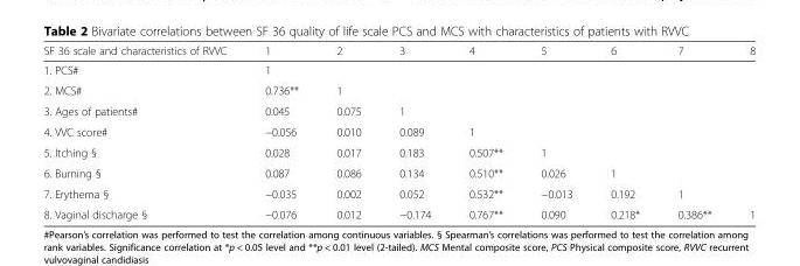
<table><thead><tr><td>SF 36 scale and characteristics of RVVC</td><td>1</td><td>2</td><td>3</td><td>4</td><td>5</td><td>6</td><td>7</td><td>8</td></tr></thead><tbody><tr><td>1. PCS#</td><td>1</td><td></td><td></td><td></td><td></td><td></td><td></td><td></td></tr><tr><td>2. MCS#</td><td>0.736**</td><td>1</td><td></td><td></td><td></td><td></td><td></td><td></td></tr><tr><td>3. Ages of patients#</td><td>0.045</td><td>0.075</td><td>1</td><td></td><td></td><td></td><td></td><td></td></tr><tr><td>4. VVC score#</td><td>−0.056</td><td>0.010</td><td>0.089</td><td>1</td><td></td><td></td><td></td><td></td></tr><tr><td>5. Itching §</td><td>0.028</td><td>0.017</td><td>0.183</td><td>0.507**</td><td>1</td><td></td><td></td><td></td></tr><tr><td>6. Burning §</td><td>0.087</td><td>0.086</td><td>0.134</td><td>0.510**</td><td>0.026</td><td>1</td><td></td><td></td></tr><tr><td>7. Erythema §</td><td>−0.035</td><td>0.002</td><td>0.052</td><td>0.532**</td><td>−0.013</td><td>0.192</td><td>1</td><td></td></tr><tr><td>8. Vaginal discharge §</td><td>−0.076</td><td>0.012</td><td>−0.174</td><td>0.767**</td><td>0.090</td><td>0.218*</td><td>0.386**</td><td>1</td></tr></tbody></table>